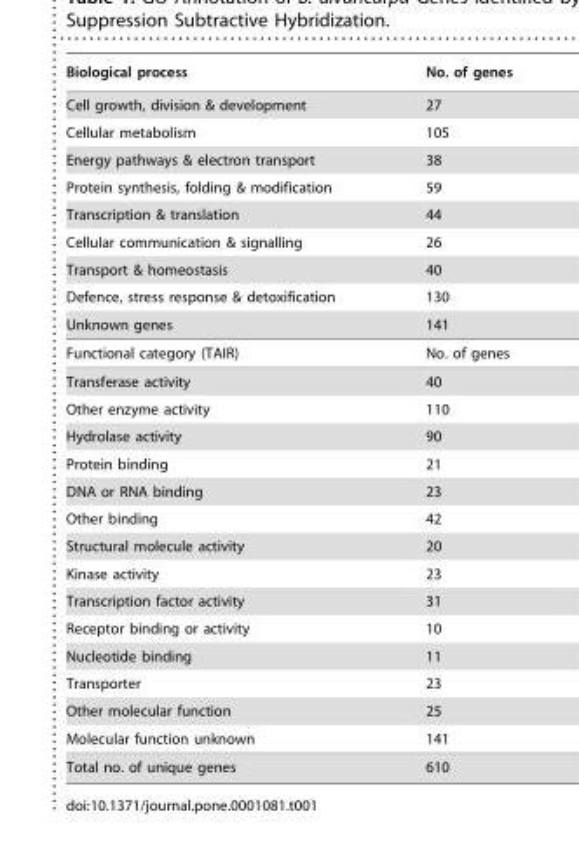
<table><thead><tr><td>Biological process</td><td>No. of genes</td></tr></thead><tbody><tr><td>Cell growth, division &amp; development</td><td>27</td></tr><tr><td>Cellular metabolism</td><td>105</td></tr><tr><td>Energy pathways &amp; electron transport</td><td>38</td></tr><tr><td>Protein synthesis, folding &amp; modification</td><td>59</td></tr><tr><td>Transcription &amp; translation</td><td>44</td></tr><tr><td>Cellular communication &amp; signalling</td><td>26</td></tr><tr><td>Transport &amp; homeostasis</td><td>40</td></tr><tr><td>Defence, stress response &amp; detoxification</td><td>130</td></tr><tr><td>Unknown genes</td><td>141</td></tr><tr><td>Functional category (TAIR)</td><td>No. of genes</td></tr><tr><td>Transferase activity</td><td>40</td></tr><tr><td>Other enzyme activity</td><td>110</td></tr><tr><td>Hydrolase activity</td><td>90</td></tr><tr><td>Protein binding</td><td>21</td></tr><tr><td>DNA or RNA binding</td><td>23</td></tr><tr><td>Other binding</td><td>42</td></tr><tr><td>Structural molecule activity</td><td>20</td></tr><tr><td>Kinase activity</td><td>23</td></tr><tr><td>Transcription factor activity</td><td>31</td></tr><tr><td>Receptor binding or activity</td><td>10</td></tr><tr><td>Nucleotide binding</td><td>11</td></tr><tr><td>Transporter</td><td>23</td></tr><tr><td>Other molecular function</td><td>25</td></tr><tr><td>Molecular function unknown</td><td>141</td></tr><tr><td>Total no. of unique genes</td><td>610</td></tr></tbody></table>